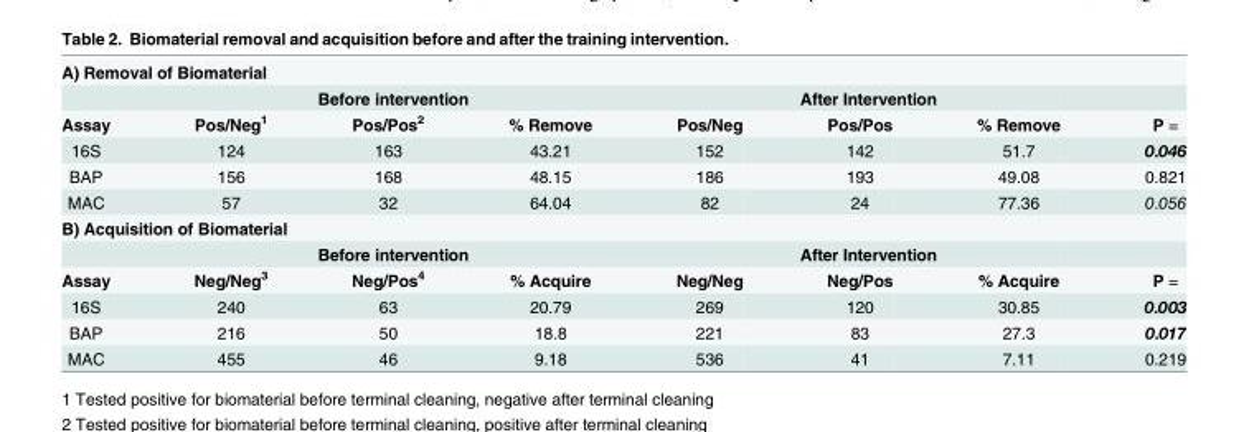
<table><tbody><tr><td colspan="8">A) Removal of Biomaterial</td></tr><tr><td></td><td colspan="3">Before intervention</td><td colspan="3">After Intervention</td><td></td></tr><tr><td>Assay</td><td>Pos/Neg<sup>1</sup></td><td>Pos/Pos<sup>2</sup></td><td>% Remove</td><td>Pos/Neg</td><td>Pos/Pos</td><td>% Remove</td><td>P =</td></tr><tr><td>16S</td><td>124</td><td>163</td><td>43.21</td><td>152</td><td>142</td><td>51.7</td><td>0.046</td></tr><tr><td>BAP</td><td>156</td><td>168</td><td>48.15</td><td>186</td><td>193</td><td>49.08</td><td>0.821</td></tr><tr><td>MAC</td><td>57</td><td>32</td><td>64.04</td><td>82</td><td>24</td><td>77.36</td><td>0.056</td></tr><tr><td colspan="8">B) Acquisition of Biomaterial</td></tr><tr><td></td><td colspan="3">Before intervention</td><td colspan="3">After Intervention</td><td></td></tr><tr><td>Assay</td><td>Neg/Neg<sup>3</sup></td><td>Neg/Pos<sup>4</sup></td><td>% Acquire</td><td>Neg/Neg</td><td>Neg/Pos</td><td>% Acquire</td><td>P =</td></tr><tr><td>16S</td><td>240</td><td>63</td><td>20.79</td><td>269</td><td>120</td><td>30.85</td><td>0.003</td></tr><tr><td>BAP</td><td>216</td><td>50</td><td>18.8</td><td>221</td><td>83</td><td>27.3</td><td>0.017</td></tr><tr><td>MAC</td><td>455</td><td>46</td><td>9.18</td><td>536</td><td>41</td><td>7.11</td><td>0.219</td></tr></tbody></table>